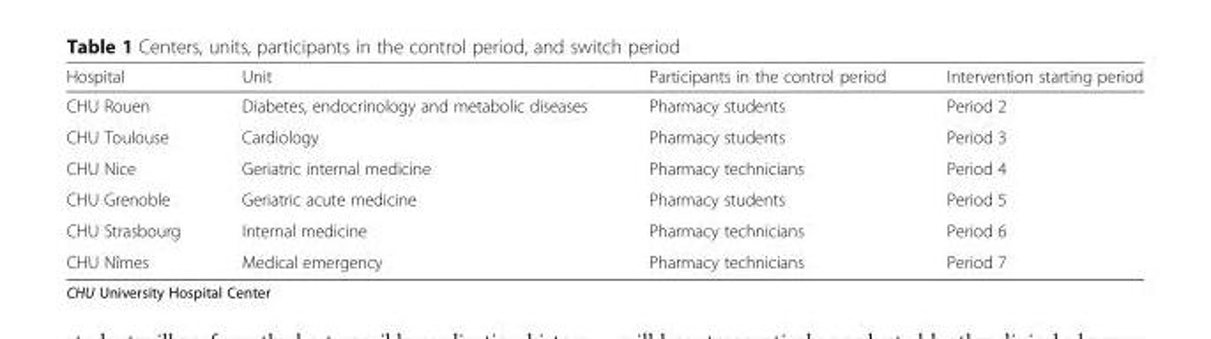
<table><thead><tr><td>Hospital</td><td>Unit</td><td>Participants in the control period</td><td>Intervention starting period</td></tr></thead><tbody><tr><td>CHU Rouen</td><td>Diabetes, endocrinology and metabolic diseases</td><td>Pharmacy students</td><td>Period 2</td></tr><tr><td>CHU Toulouse</td><td>Cardiology</td><td>Pharmacy students</td><td>Period 3</td></tr><tr><td>CHU Nice</td><td>Geriatric internal medicine</td><td>Pharmacy technicians</td><td>Period 4</td></tr><tr><td>CHU Grenoble</td><td>Geriatric acute medicine</td><td>Pharmacy students</td><td>Period 5</td></tr><tr><td>CHU Strasbourg</td><td>Internal medicine</td><td>Pharmacy technicians</td><td>Period 6</td></tr><tr><td>CHU Nîmes</td><td>Medical emergency</td><td>Pharmacy technicians</td><td>Period 7</td></tr></tbody></table>